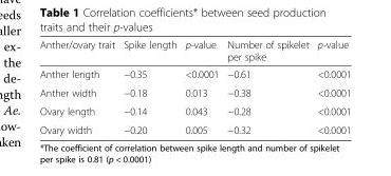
<table><thead><tr><td>Anther/ovary trait</td><td>Spike length</td><td>p-value</td><td>Number of spikelet per spike</td><td>p-value</td></tr></thead><tbody><tr><td>Anther length</td><td>−0.35</td><td>&lt;0.0001</td><td>−0.61</td><td>&lt;0.0001</td></tr><tr><td>Anther width</td><td>−0.18</td><td>0.013</td><td>−0.38</td><td>&lt;0.0001</td></tr><tr><td>Ovary length</td><td>−0.14</td><td>0.043</td><td>−0.28</td><td>&lt;0.0001</td></tr><tr><td>Ovary width</td><td>−0.20</td><td>0.005</td><td>−0.32</td><td>&lt;0.0001</td></tr></tbody></table>